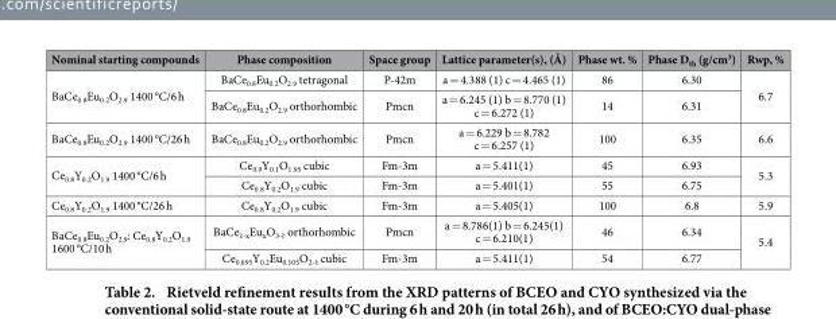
<table><thead><tr><td>Nominal starting compounds</td><td>Phase composition</td><td>Space group</td><td>Lattice parameter(s), (Å)</td><td>Phase wt. %</td><td>Phase D<sub>th</sub> (g/cm<sup>3</sup>)</td><td>Rwp, %</td></tr></thead><tbody><tr><td rowspan="2">BaCe<sub>0.8</sub>Eu<sub>0.2</sub>O<sub>2.9</sub> 1400 °C/6 h</td><td>BaCe<sub>0.8</sub>Eu<sub>0.2</sub>O<sub>2.9</sub> tetragonal</td><td>P-42m</td><td>a = 4.388 (1) c = 4.465 (1)</td><td>86</td><td>6.30</td><td rowspan="2">6.7</td></tr><tr><td>BaCe<sub>0.8</sub>Eu<sub>0.2</sub>O<sub>2.9</sub> orthorhombic</td><td>Pmcn</td><td>a = 6.245 (1) b = 8.770 (1) c = 6.272 (1)</td><td>14</td><td>6.31</td></tr><tr><td>BaCe<sub>0.8</sub>Eu<sub>0.2</sub>O<sub>2.9</sub> 1400 °C/26 h</td><td>BaCe<sub>0.8</sub>Eu<sub>0.2</sub>O<sub>2.9</sub> orthorhombic</td><td>Pmcn</td><td>a = 6.229 b = 8.782 c = 6.257 (1)</td><td>100</td><td>6.35</td><td>6.6</td></tr><tr><td rowspan="2">Ce<sub>0.8</sub>Y<sub>0.2</sub>O<sub>1.9</sub> 1400 °C/6 h</td><td>Ce<sub>0.9</sub>Y<sub>0.1</sub>O<sub>1.95</sub> cubic</td><td>Fm-3m</td><td>a = 5.411(1)</td><td>45</td><td>6.93</td><td rowspan="2">5.3</td></tr><tr><td>Ce<sub>0.8</sub>Y<sub>0.2</sub>O<sub>1.9</sub> cubic</td><td>Fm-3m</td><td>a = 5.401(1)</td><td>55</td><td>6.75</td></tr><tr><td>Ce<sub>0.8</sub>Y<sub>0.2</sub>O<sub>1.9</sub> 1400 °C/26 h</td><td>Ce<sub>0.8</sub>Y<sub>0.2</sub>O<sub>1.9</sub> cubic</td><td>Fm-3m</td><td>a = 5.405(1)</td><td>100</td><td>6.8</td><td>5.9</td></tr><tr><td rowspan="2">BaCe<sub>0.8</sub>Eu<sub>0.2</sub>O<sub>2.9</sub>: Ce<sub>0.8</sub>Y<sub>0.2</sub>O<sub>1.9</sub> 1600 °C/10 h</td><td>BaCe<sub>1-x</sub>Eu<sub>x</sub>O<sub>3-δ</sub> orthorhombic</td><td>Pmcn</td><td>a = 8.786(1) b = 6.245(1) c = 6.210(1)</td><td>46</td><td>6.34</td><td rowspan="2">5.4</td></tr><tr><td>Ce<sub>0.695</sub>Y<sub>0.2</sub>Eu<sub>0.105</sub>O<sub>2-δ</sub> cubic</td><td>Fm-3m</td><td>a = 5.411(1)</td><td>54</td><td>6.77</td></tr></tbody></table>